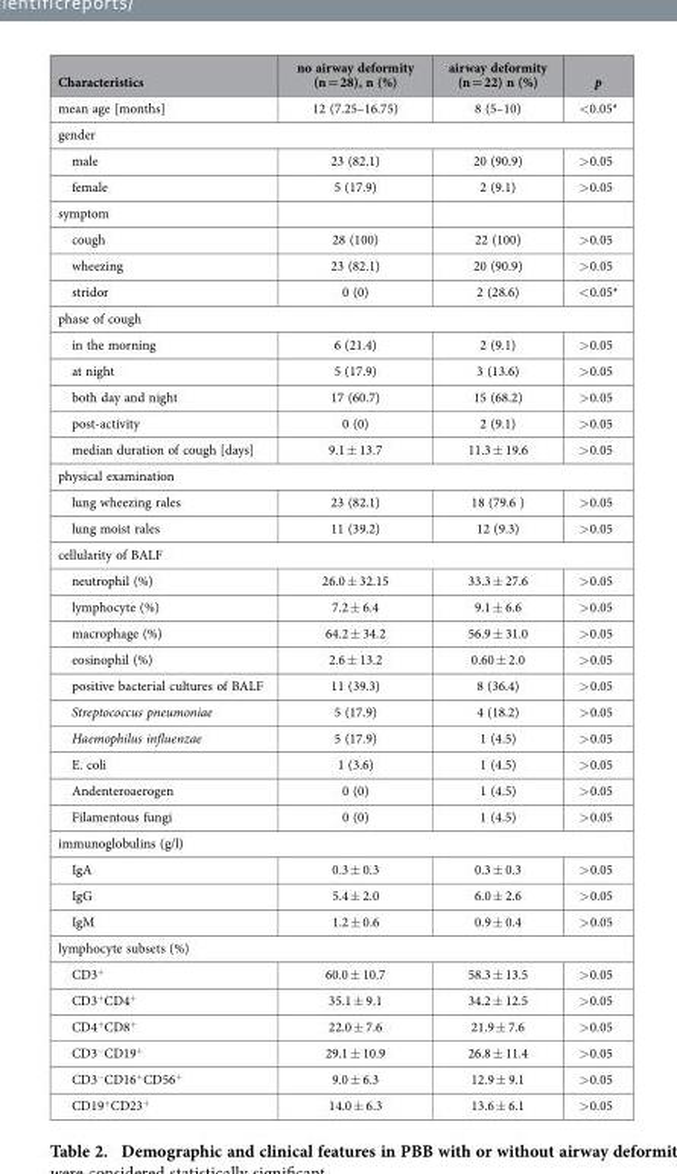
<table><thead><tr><td rowspan="2">Characteristics mean age [months]</td><td rowspan="2">no airway deformity (n = 28), n (%) 12 (7.25–16.75)</td><td rowspan="2">airway deformity (n = 22) n (%) 8 (5–10)</td><td rowspan="2">p &lt;0.05*</td></tr><tr></tr></thead><tbody><tr><td colspan="4">gender</td></tr><tr><td>male</td><td>23 (82.1)</td><td>20 (90.9)</td><td>&gt; 0.05</td></tr><tr><td>female</td><td>5 (17.9)</td><td>2 (9.1)</td><td>&gt; 0.05</td></tr><tr><td colspan="4">symptom</td></tr><tr><td>cough</td><td>28 (100)</td><td>22 (100)</td><td>&gt; 0.05</td></tr><tr><td>wheezing</td><td>23 (82.1)</td><td>20 (90.9)</td><td>&gt; 0.05</td></tr><tr><td>stridor</td><td>0 (0)</td><td>2 (28.6)</td><td>&lt; 0.05*</td></tr><tr><td colspan="4">phase of cough</td></tr><tr><td>in the morning</td><td>6 (21.4)</td><td>2 (9.1)</td><td>&gt; 0.05</td></tr><tr><td>at night</td><td>5 (17.9)</td><td>3 (13.6)</td><td>&gt; 0.05</td></tr><tr><td>both day and night</td><td>17 (60.7)</td><td>15 (68.2)</td><td>&gt; 0.05</td></tr><tr><td>post-activity</td><td>0 (0)</td><td>2 (9.1)</td><td>&gt; 0.05</td></tr><tr><td>median duration of cough [days]</td><td>9.1 ± 13.7</td><td>11.3 ± 19.6</td><td>&gt; 0.05</td></tr><tr><td colspan="4">physical examination</td></tr><tr><td>lung wheezing rales</td><td>23 (82.1)</td><td>18 (79.6 )</td><td>&gt; 0.05</td></tr><tr><td>lung moist rales</td><td>11 (39.2)</td><td>12 (9.3)</td><td>&gt; 0.05</td></tr><tr><td colspan="4">cellularity of BALF</td></tr><tr><td>neutrophil (%)</td><td>26.0 ± 32.15</td><td>33.3 ± 27.6</td><td>&gt; 0.05</td></tr><tr><td>lymphocyte (%)</td><td>7.2 ± 6.4</td><td>9.1 ± 6.6</td><td>&gt; 0.05</td></tr><tr><td>macrophage (%)</td><td>64.2 ± 34.2</td><td>56.9 ± 31.0</td><td>&gt; 0.05</td></tr><tr><td>eosinophil (%)</td><td>2.6 ± 13.2</td><td>0.60 ± 2.0</td><td>&gt; 0.05</td></tr><tr><td>positive bacterial cultures of BALF</td><td>11 (39.3)</td><td>8 (36.4)</td><td>&gt; 0.05</td></tr><tr><td>Streptococcus pneumoniae</td><td>5 (17.9)</td><td>4 (18.2)</td><td>&gt; 0.05</td></tr><tr><td>Haemophilus influenzae</td><td>5 (17.9)</td><td>1 (4.5)</td><td>&gt; 0.05</td></tr><tr><td>E. coli</td><td>1 (3.6)</td><td>1 (4.5)</td><td>&gt; 0.05</td></tr><tr><td>Andenteroaerogen</td><td>0 (0)</td><td>1 (4.5)</td><td>&gt; 0.05</td></tr><tr><td>Filamentous fungi</td><td>0 (0)</td><td>1 (4.5)</td><td>&gt; 0.05</td></tr><tr><td colspan="4">immunoglobulins (g/l)</td></tr><tr><td>IgA</td><td>0.3 ± 0.3</td><td>0.3 ± 0.3</td><td>&gt; 0.05</td></tr><tr><td>IgG</td><td>5.4 ± 2.0</td><td>6.0 ± 2.6</td><td>&gt; 0.05</td></tr><tr><td>IgM</td><td>1.2 ± 0.6</td><td>0.9 ± 0.4</td><td>&gt; 0.05</td></tr><tr><td colspan="4">lymphocyte subsets (%)</td></tr><tr><td>CD3<sup>+</sup></td><td>60.0 ± 10.7</td><td>58.3 ± 13.5</td><td>&gt; 0.05</td></tr><tr><td>CD3<sup>+</sup>CD4<sup>+</sup></td><td>35.1 ± 9.1</td><td>34.2 ± 12.5</td><td>&gt; 0.05</td></tr><tr><td>CD4<sup>+</sup>CD8<sup>+</sup></td><td>22.0 ± 7.6</td><td>21.9 ± 7.6</td><td>&gt; 0.05</td></tr><tr><td>CD3<sup>−</sup>CD19<sup>+</sup></td><td>29.1 ± 10.9</td><td>26.8 ± 11.4</td><td>&gt; 0.05</td></tr><tr><td>CD3<sup>−</sup>CD16<sup>+</sup>CD56<sup>+</sup></td><td>9.0 ± 6.3</td><td>12.9 ± 9.1</td><td>&gt; 0.05</td></tr><tr><td>CD19<sup>+</sup>CD23<sup>+</sup></td><td>14.0 ± 6.3</td><td>13.6 ± 6.1</td><td>&gt; 0.05</td></tr></tbody></table>